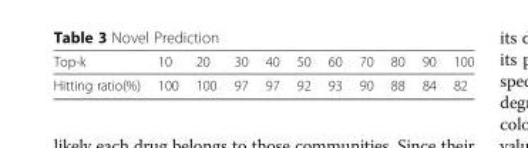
<table><thead><tr><td>Top-k</td><td>10</td><td>20</td><td>30</td><td>40</td><td>50</td><td>60</td><td>70</td><td>80</td><td>90</td><td>100</td></tr></thead><tbody><tr><td>Hitting ratio(%)</td><td>100</td><td>100</td><td>97</td><td>97</td><td>92</td><td>93</td><td>90</td><td>88</td><td>84</td><td>82</td></tr></tbody></table>